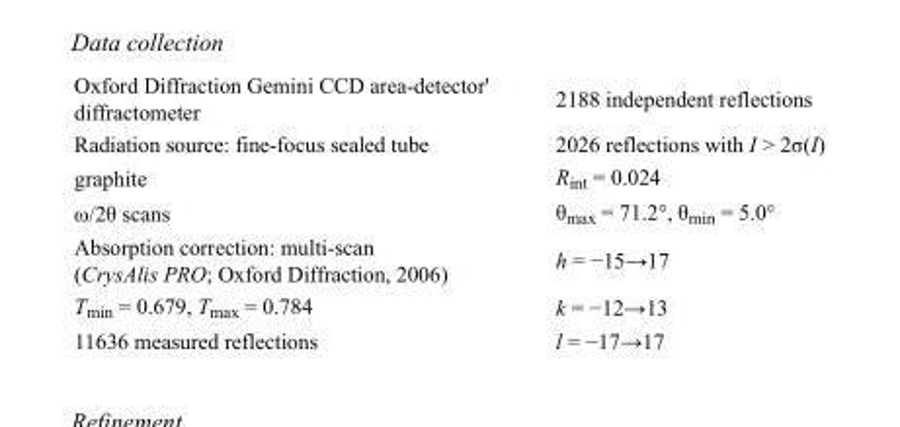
<table><tbody><tr><td>Oxford Diffraction Gemini CCD area-detector&#x27; diffractometer</td><td>2188 independent reflections</td></tr><tr><td>Radiation source: fine-focus sealed tube</td><td>2026 reflections with I &gt; 2σ(I)</td></tr><tr><td>graphite</td><td>R<sub>int</sub> = 0.024</td></tr><tr><td>ω/2θ scans</td><td>θ<sub>max</sub> = 71.2°, θ<sub>min</sub> = 5.0°</td></tr><tr><td>Absorption correction: multi-scan (CrysAlis PRO; Oxford Diffraction, 2006)</td><td>h = −15→17</td></tr><tr><td>T<sub>min</sub> = 0.679, T<sub>max</sub> = 0.784</td><td>k = −12→13</td></tr><tr><td>11636 measured reflections</td><td>l = −17→17</td></tr></tbody></table>